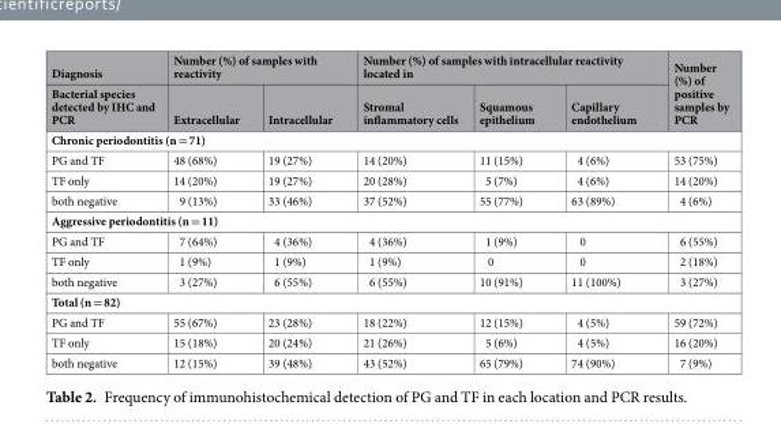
<table><thead><tr><td rowspan="2">Diagnosis Bacterial species detected by IHC and PCR</td><td colspan="2">Number (%) of samples with reactivity</td><td colspan="3">Number (%) of samples with intracellular reactivity located in</td><td rowspan="2">Number (%) of positive samples by PCR</td></tr><tr><td>Extracellular</td><td>Intracellular</td><td>Stromal inflammatory cells</td><td>Squamous epithelium</td><td>Capillary endothelium</td></tr></thead><tbody><tr><td colspan="7">Chronic periodontitis (n = 71)</td></tr><tr><td>PG and TF</td><td>48 (68%)</td><td>19 (27%)</td><td>14 (20%)</td><td>11 (15%)</td><td>4 (6%)</td><td>53 (75%)</td></tr><tr><td>TF only</td><td>14 (20%)</td><td>19 (27%)</td><td>20 (28%)</td><td>5 (7%)</td><td>4 (6%)</td><td>14 (20%)</td></tr><tr><td>both negative</td><td>9 (13%)</td><td>33 (46%)</td><td>37 (52%)</td><td>55 (77%)</td><td>63 (89%)</td><td>4 (6%)</td></tr><tr><td colspan="7">Aggressive periodontitis (n = 11)</td></tr><tr><td>PG and TF</td><td>7 (64%)</td><td>4 (36%)</td><td>4 (36%)</td><td>1 (9%)</td><td>0</td><td>6 (55%)</td></tr><tr><td>TF only</td><td>1 (9%)</td><td>1 (9%)</td><td>1 (9%)</td><td>0</td><td>0</td><td>2 (18%)</td></tr><tr><td>both negative</td><td>3 (27%)</td><td>6 (55%)</td><td>6 (55%)</td><td>10 (91%)</td><td>11 (100%)</td><td>3 (27%)</td></tr><tr><td colspan="7">Total (n = 82)</td></tr><tr><td>PG and TF</td><td>55 (67%)</td><td>23 (28%)</td><td>18 (22%)</td><td>12 (15%)</td><td>4 (5%)</td><td>59 (72%)</td></tr><tr><td>TF only</td><td>15 (18%)</td><td>20 (24%)</td><td>21 (26%)</td><td>5 (6%)</td><td>4 (5%)</td><td>16 (20%)</td></tr><tr><td>both negative</td><td>12 (15%)</td><td>39 (48%)</td><td>43 (52%)</td><td>65 (79%)</td><td>74 (90%)</td><td>7 (9%)</td></tr></tbody></table>